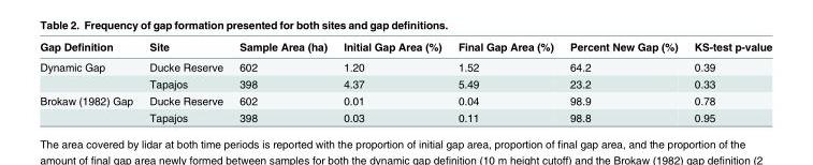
<table><thead><tr><td>Gap Definition</td><td>Site</td><td>Sample Area (ha)</td><td>Initial Gap Area (%)</td><td>Final Gap Area (%)</td><td>Percent New Gap (%)</td><td>KS-test p-value</td></tr></thead><tbody><tr><td rowspan="2">Dynamic Gap</td><td>Ducke Reserve</td><td>602</td><td>1.20</td><td>1.52</td><td>64.2</td><td>0.39</td></tr><tr><td>Tapajos</td><td>398</td><td>4.37</td><td>5.49</td><td>23.2</td><td>0.33</td></tr><tr><td rowspan="2">Brokaw (1982) Gap</td><td>Ducke Reserve</td><td>602</td><td>0.01</td><td>0.04</td><td>98.9</td><td>0.78</td></tr><tr><td>Tapajos</td><td>398</td><td>0.03</td><td>0.11</td><td>98.8</td><td>0.95</td></tr></tbody></table>